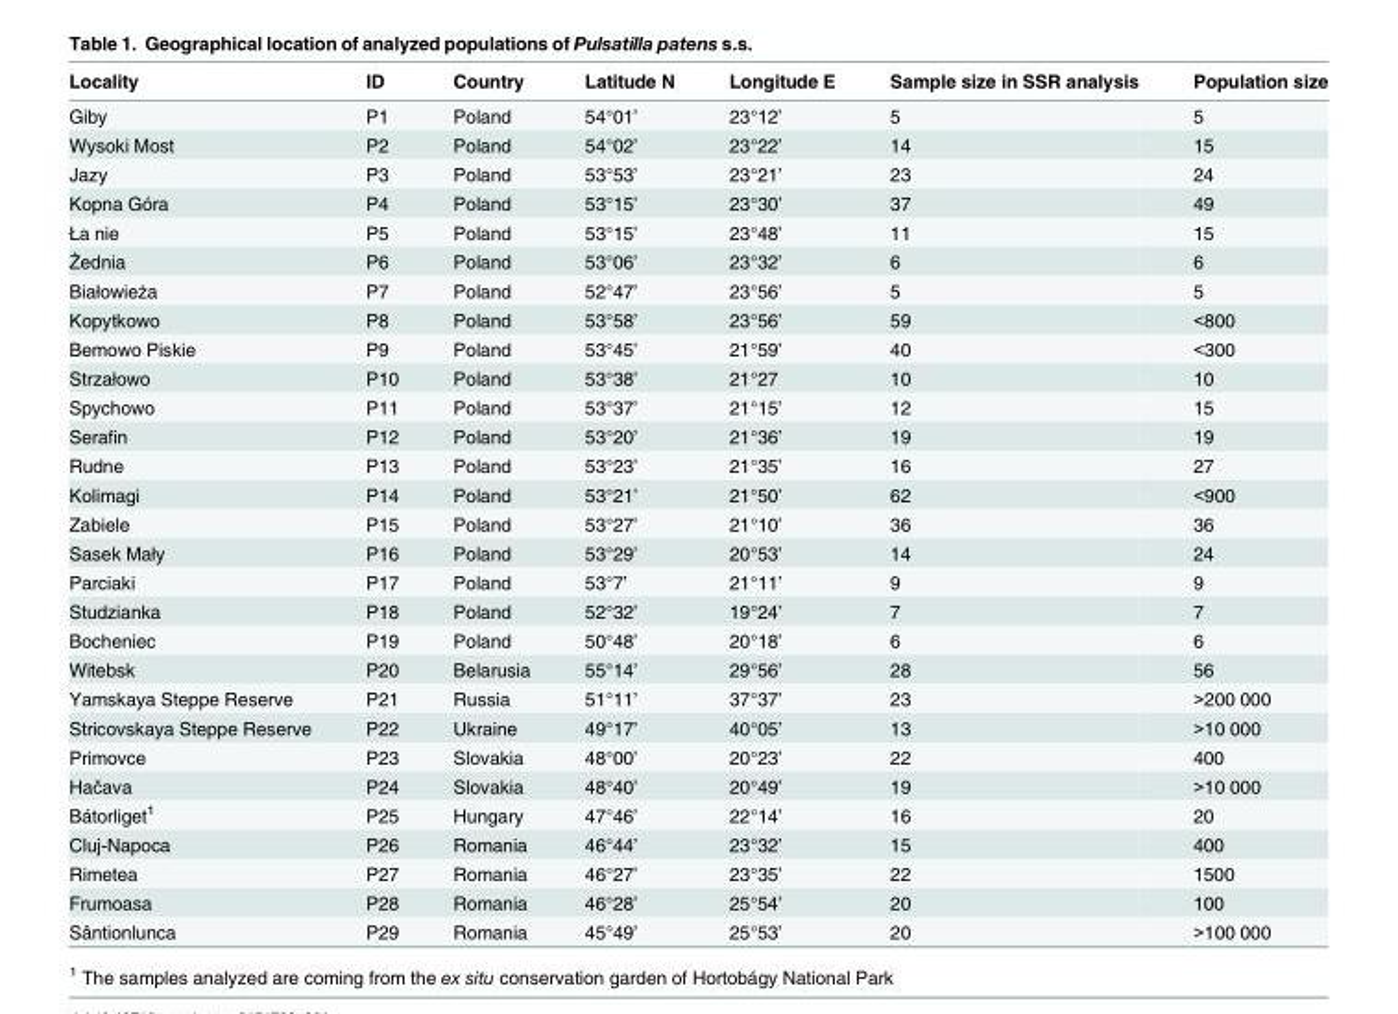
<table><thead><tr><td>Locality</td><td>ID</td><td>Country</td><td>Latitude N</td><td>Longitude E</td><td>Sample size in SSR analysis</td><td>Population size</td></tr></thead><tbody><tr><td>Giby</td><td>P1</td><td>Poland</td><td>54°01’</td><td>23°12’</td><td>5</td><td>5</td></tr><tr><td>Wysoki Most</td><td>P2</td><td>Poland</td><td>54°02’</td><td>23°22’</td><td>14</td><td>15</td></tr><tr><td>Jazy</td><td>P3</td><td>Poland</td><td>53°53’</td><td>23°21’</td><td>23</td><td>24</td></tr><tr><td>Kopna Góra</td><td>P4</td><td>Poland</td><td>53°15’</td><td>23°30’</td><td>37</td><td>49</td></tr><tr><td>Łaźnie</td><td>P5</td><td>Poland</td><td>53°15’</td><td>23°48’</td><td>11</td><td>15</td></tr><tr><td>Żednia</td><td>P6</td><td>Poland</td><td>53°06’</td><td>23°32’</td><td>6</td><td>6</td></tr><tr><td>Białowieża</td><td>P7</td><td>Poland</td><td>52°47’</td><td>23°56’</td><td>5</td><td>5</td></tr><tr><td>Kopytkowo</td><td>P8</td><td>Poland</td><td>53°58’</td><td>23°56’</td><td>59</td><td>&lt;800</td></tr><tr><td>Bemowo Piskie</td><td>P9</td><td>Poland</td><td>53°45’</td><td>21°59’</td><td>40</td><td>&lt;300</td></tr><tr><td>Strzałowo</td><td>P10</td><td>Poland</td><td>53°38’</td><td>21°27</td><td>10</td><td>10</td></tr><tr><td>Spychowo</td><td>P11</td><td>Poland</td><td>53°37’</td><td>21°15’</td><td>12</td><td>15</td></tr><tr><td>Serafin</td><td>P12</td><td>Poland</td><td>53°20’</td><td>21°36’</td><td>19</td><td>19</td></tr><tr><td>Rudne</td><td>P13</td><td>Poland</td><td>53°23’</td><td>21°35’</td><td>16</td><td>27</td></tr><tr><td>Kolimagi</td><td>P14</td><td>Poland</td><td>53°21’</td><td>21°50’</td><td>62</td><td>&lt;900</td></tr><tr><td>Zabiele</td><td>P15</td><td>Poland</td><td>53°27’</td><td>21°10’</td><td>36</td><td>36</td></tr><tr><td>Sasek Mały</td><td>P16</td><td>Poland</td><td>53°29’</td><td>20°53’</td><td>14</td><td>24</td></tr><tr><td>Parciaki</td><td>P17</td><td>Poland</td><td>53°7’</td><td>21°11’</td><td>9</td><td>9</td></tr><tr><td>Studzianka</td><td>P18</td><td>Poland</td><td>52°32’</td><td>19°24’</td><td>7</td><td>7</td></tr><tr><td>Bocheniec</td><td>P19</td><td>Poland</td><td>50°48’</td><td>20°18’</td><td>6</td><td>6</td></tr><tr><td>Witebsk</td><td>P20</td><td>Belarusia</td><td>55°14’</td><td>29°56’</td><td>28</td><td>56</td></tr><tr><td>Yamskaya Steppe Reserve</td><td>P21</td><td>Russia</td><td>51°11’</td><td>37°37’</td><td>23</td><td>&gt;200 000</td></tr><tr><td>Stricovskaya Steppe Reserve</td><td>P22</td><td>Ukraine</td><td>49°17’</td><td>40°05’</td><td>13</td><td>&gt;10 000</td></tr><tr><td>Primovce</td><td>P23</td><td>Slovakia</td><td>48°00’</td><td>20°23’</td><td>22</td><td>400</td></tr><tr><td>Hačava</td><td>P24</td><td>Slovakia</td><td>48°40’</td><td>20°49’</td><td>19</td><td>&gt;10 000</td></tr><tr><td>Bátorliget<sup>1</sup></td><td>P25</td><td>Hungary</td><td>47°46’</td><td>22°14’</td><td>16</td><td>20</td></tr><tr><td>Cluj-Napoca</td><td>P26</td><td>Romania</td><td>46°44’</td><td>23°32’</td><td>15</td><td>400</td></tr><tr><td>Rimetea</td><td>P27</td><td>Romania</td><td>46°27’</td><td>23°35’</td><td>22</td><td>1500</td></tr><tr><td>Frumoasa</td><td>P28</td><td>Romania</td><td>46°28’</td><td>25°54’</td><td>20</td><td>100</td></tr><tr><td>Sântionlunca</td><td>P29</td><td>Romania</td><td>45°49’</td><td>25°53’</td><td>20</td><td>&gt;100 000</td></tr></tbody></table>